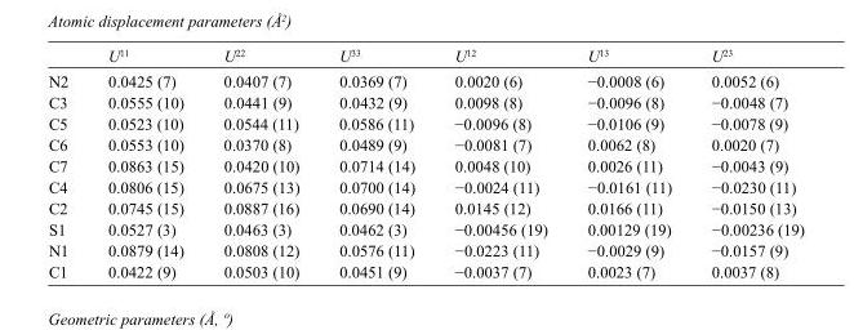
<table><thead><tr><td></td><td>U<sup>11</sup></td><td>U<sup>22</sup></td><td>U<sup>33</sup></td><td>U<sup>12</sup></td><td>U<sup>13</sup></td><td>U<sup>23</sup></td></tr></thead><tbody><tr><td>N2</td><td>0.0425 (7)</td><td>0.0407 (7)</td><td>0.0369 (7)</td><td>0.0020 (6)</td><td>−0.0008 (6)</td><td>0.0052 (6)</td></tr><tr><td>C3</td><td>0.0555 (10)</td><td>0.0441 (9)</td><td>0.0432 (9)</td><td>0.0098 (8)</td><td>−0.0096 (8)</td><td>−0.0048 (7)</td></tr><tr><td>C5</td><td>0.0523 (10)</td><td>0.0544 (11)</td><td>0.0586 (11)</td><td>−0.0096 (8)</td><td>−0.0106 (9)</td><td>−0.0078 (9)</td></tr><tr><td>C6</td><td>0.0553 (10)</td><td>0.0370 (8)</td><td>0.0489 (9)</td><td>−0.0081 (7)</td><td>0.0062 (8)</td><td>0.0020 (7)</td></tr><tr><td>C7</td><td>0.0863 (15)</td><td>0.0420 (10)</td><td>0.0714 (14)</td><td>0.0048 (10)</td><td>0.0026 (11)</td><td>−0.0043 (9)</td></tr><tr><td>C4</td><td>0.0806 (15)</td><td>0.0675 (13)</td><td>0.0700 (14)</td><td>−0.0024 (11)</td><td>−0.0161 (11)</td><td>−0.0230 (11)</td></tr><tr><td>C2</td><td>0.0745 (15)</td><td>0.0887 (16)</td><td>0.0690 (14)</td><td>0.0145 (12)</td><td>0.0166 (11)</td><td>−0.0150 (13)</td></tr><tr><td>S1</td><td>0.0527 (3)</td><td>0.0463 (3)</td><td>0.0462 (3)</td><td>−0.00456 (19)</td><td>0.00129 (19)</td><td>−0.00236 (19)</td></tr><tr><td>N1</td><td>0.0879 (14)</td><td>0.0808 (12)</td><td>0.0576 (11)</td><td>−0.0223 (11)</td><td>−0.0029 (9)</td><td>−0.0157 (9)</td></tr><tr><td>C1</td><td>0.0422 (9)</td><td>0.0503 (10)</td><td>0.0451 (9)</td><td>−0.0037 (7)</td><td>0.0023 (7)</td><td>0.0037 (8)</td></tr></tbody></table>